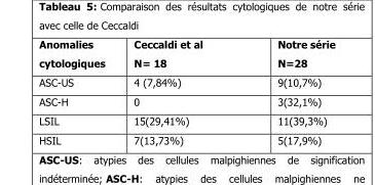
<table><thead><tr><td>Anomalies cytologiques</td><td>Ceccaldi et al N= 18</td><td>Notre série N=28</td></tr></thead><tbody><tr><td>ASC-US</td><td>4 (7,84%)</td><td>9(10,7%)</td></tr><tr><td>ASC-H</td><td>0</td><td>3(32,1%)</td></tr><tr><td>LSIL</td><td>15(29,41%)</td><td>11(39,3%)</td></tr><tr><td>HSIL</td><td>7(13,73%)</td><td>5(17,9%)</td></tr></tbody></table>